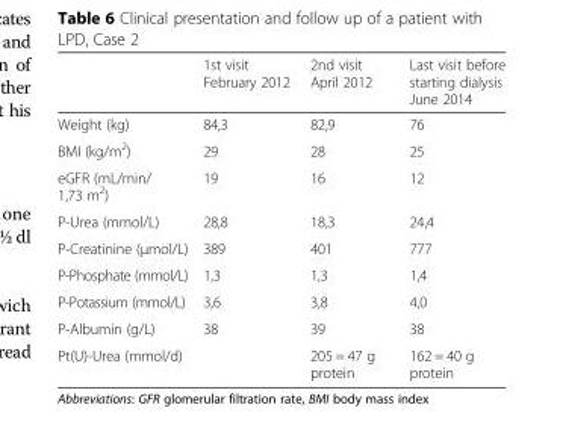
<table><thead><tr><td></td><td>1st visit February 2012</td><td>2nd visit April 2012</td><td>Last visit before starting dialysis June 2014</td></tr></thead><tbody><tr><td>Weight (kg)</td><td>84,3</td><td>82,9</td><td>76</td></tr><tr><td>BMI (kg/m<sup>2</sup>)</td><td>29</td><td>28</td><td>25</td></tr><tr><td>eGFR (mL/min/ 1,73 m<sup>2</sup>)</td><td>19</td><td>16</td><td>12</td></tr><tr><td>P-Urea (mmol/L)</td><td>28,8</td><td>18,3</td><td>24,4</td></tr><tr><td>P-Creatinine (μmol/L)</td><td>389</td><td>401</td><td>777</td></tr><tr><td>P-Phosphate (mmol/L)</td><td>1,3</td><td>1,3</td><td>1,4</td></tr><tr><td>P-Potassium (mmol/L)</td><td>3,6</td><td>3,8</td><td>4,0</td></tr><tr><td>P-Albumin (g/L)</td><td>38</td><td>39</td><td>38</td></tr><tr><td>Pt(U)-Urea (mmol/d)</td><td></td><td>205 = 47 g protein</td><td>162 = 40 g protein</td></tr></tbody></table>